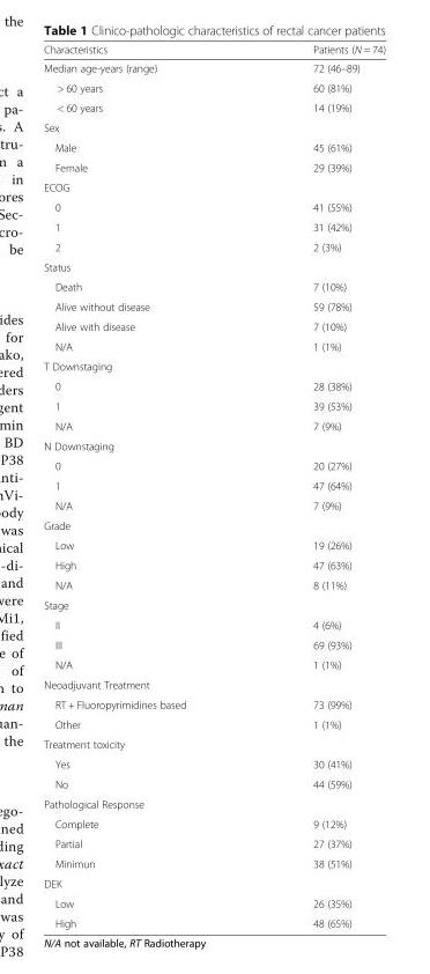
<table><thead><tr><td>Characteristics</td><td>Patients (N = 74)</td></tr></thead><tbody><tr><td>Median age-years (range)</td><td>72 (46–89)</td></tr><tr><td>&gt; 60 years</td><td>60 (81%)</td></tr><tr><td>&lt; 60 years</td><td>14 (19%)</td></tr><tr><td colspan="2">Sex</td></tr><tr><td>Male</td><td>45 (61%)</td></tr><tr><td>Female</td><td>29 (39%)</td></tr><tr><td colspan="2">ECOG</td></tr><tr><td>0</td><td>41 (55%)</td></tr><tr><td>1</td><td>31 (42%)</td></tr><tr><td>2</td><td>2 (3%)</td></tr><tr><td colspan="2">Status</td></tr><tr><td>Death</td><td>7 (10%)</td></tr><tr><td>Alive without disease</td><td>59 (78%)</td></tr><tr><td>Alive with disease</td><td>7 (10%)</td></tr><tr><td>N/A</td><td>1 (1%)</td></tr><tr><td colspan="2">T Downstaging</td></tr><tr><td>0</td><td>28 (38%)</td></tr><tr><td>1</td><td>39 (53%)</td></tr><tr><td>N/A</td><td>7 (9%)</td></tr><tr><td colspan="2">N Downstaging</td></tr><tr><td>0</td><td>20 (27%)</td></tr><tr><td>1</td><td>47 (64%)</td></tr><tr><td>N/A</td><td>7 (9%)</td></tr><tr><td colspan="2">Grade</td></tr><tr><td>Low</td><td>19 (26%)</td></tr><tr><td>High</td><td>47 (63%)</td></tr><tr><td>N/A</td><td>8 (11%)</td></tr><tr><td colspan="2">Stage</td></tr><tr><td>II</td><td>4 (6%)</td></tr><tr><td>III</td><td>69 (93%)</td></tr><tr><td>N/A</td><td>1 (1%)</td></tr><tr><td colspan="2">Neoadjuvant Treatment</td></tr><tr><td>RT + Fluoropyrimidines based</td><td>73 (99%)</td></tr><tr><td>Other</td><td>1 (1%)</td></tr><tr><td colspan="2">Treatment toxicity</td></tr><tr><td>Yes</td><td>30 (41%)</td></tr><tr><td>No</td><td>44 (59%)</td></tr><tr><td colspan="2">Pathological Response</td></tr><tr><td>Complete</td><td>9 (12%)</td></tr><tr><td>Partial</td><td>27 (37%)</td></tr><tr><td>Minimun</td><td>38 (51%)</td></tr><tr><td colspan="2">DEK</td></tr><tr><td>Low</td><td>26 (35%)</td></tr><tr><td>High</td><td>48 (65%)</td></tr></tbody></table>